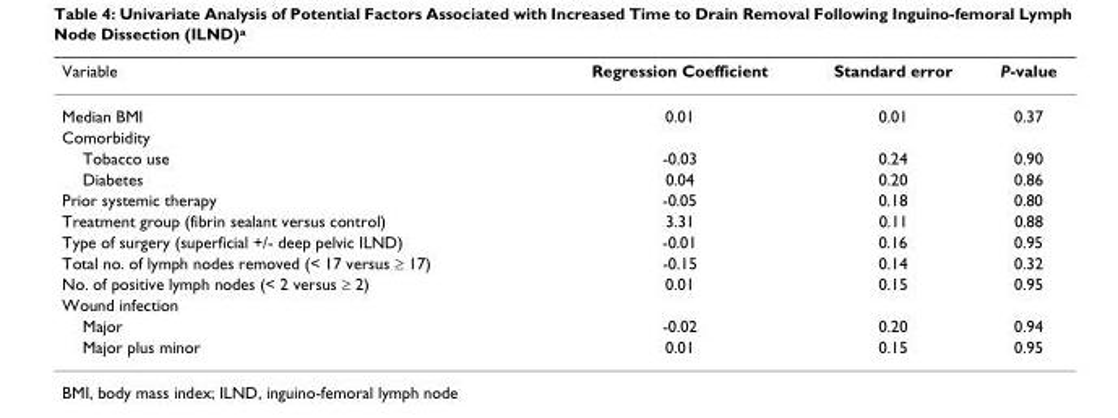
<table><thead><tr><td>Variable</td><td>Regression Coefficient</td><td>Standard error</td><td>P-value</td></tr></thead><tbody><tr><td>Median BMI</td><td>0.01</td><td>0.01</td><td>0.37</td></tr><tr><td colspan="4">Comorbidity</td></tr><tr><td>Tobacco use</td><td>-0.03</td><td>0.24</td><td>0.90</td></tr><tr><td>Diabetes</td><td>0.04</td><td>0.20</td><td>0.86</td></tr><tr><td>Prior systemic therapy</td><td>-0.05</td><td>0.18</td><td>0.80</td></tr><tr><td>Treatment group (fibrin sealant versus control)</td><td>3.31</td><td>0.11</td><td>0.88</td></tr><tr><td>Type of surgery (superficial +/- deep pelvic ILND)</td><td>-0.01</td><td>0.16</td><td>0.95</td></tr><tr><td>Total no. of lymph nodes removed (&lt; 17 versus ≥ 17)</td><td>-0.15</td><td>0.14</td><td>0.32</td></tr><tr><td>No. of positive lymph nodes (&lt; 2 versus ≥ 2)</td><td>0.01</td><td>0.15</td><td>0.95</td></tr><tr><td colspan="4">Wound infection</td></tr><tr><td>Major</td><td>-0.02</td><td>0.20</td><td>0.94</td></tr><tr><td>Major plus minor</td><td>0.01</td><td>0.15</td><td>0.95</td></tr></tbody></table>